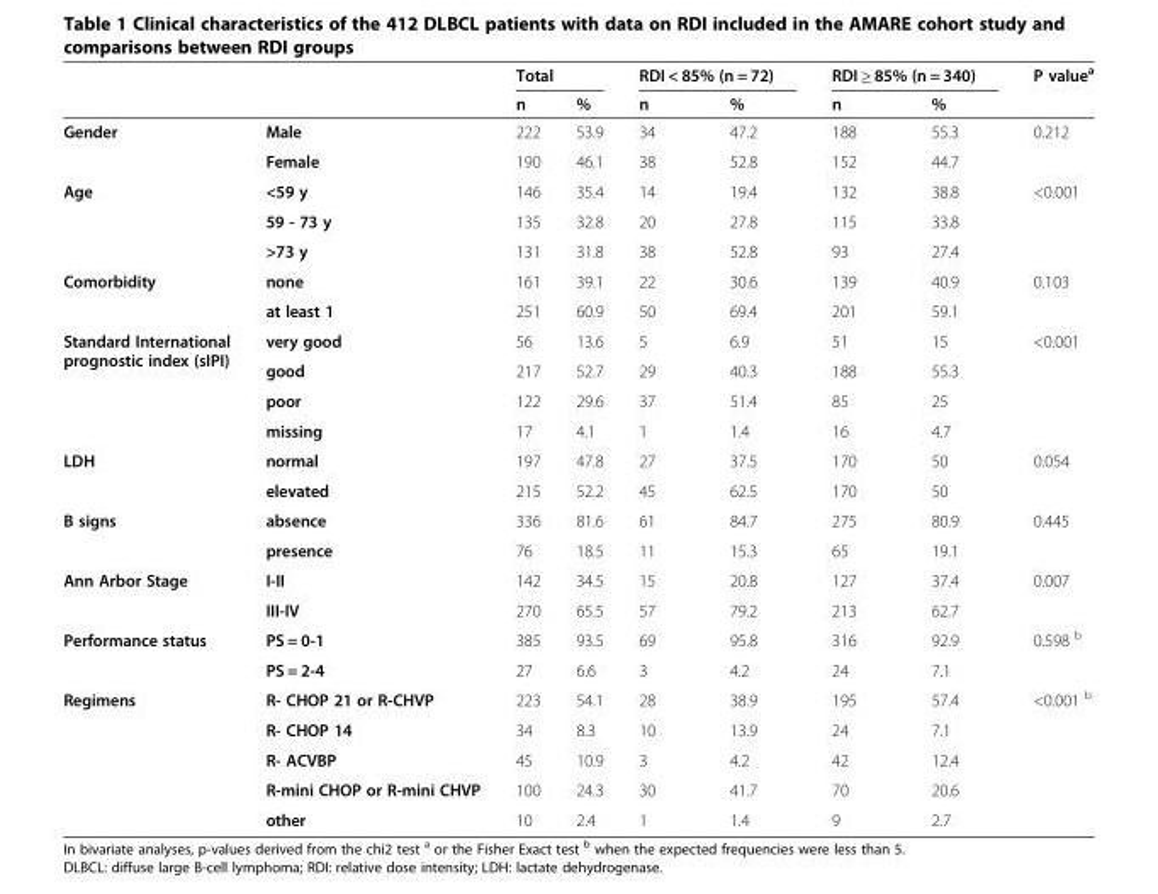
<table><thead><tr><td rowspan="2"></td><td rowspan="2"></td><td colspan="2">Total</td><td colspan="2">RDI &lt; 85% (n = 72)</td><td colspan="2">RDI ≥ 85% (n = 340)</td><td rowspan="2">P value<sup>a</sup></td></tr><tr><td>n</td><td>%</td><td>n</td><td>%</td><td>n</td><td>%</td></tr></thead><tbody><tr><td rowspan="2">Gender</td><td>Male</td><td>222</td><td>53.9</td><td>34</td><td>47.2</td><td>188</td><td>55.3</td><td>0.212</td></tr><tr><td>Female</td><td>190</td><td>46.1</td><td>38</td><td>52.8</td><td>152</td><td>44.7</td><td></td></tr><tr><td rowspan="3">Age</td><td>&lt;59 y</td><td>146</td><td>35.4</td><td>14</td><td>19.4</td><td>132</td><td>38.8</td><td>&lt;0.001</td></tr><tr><td>59 - 73 y</td><td>135</td><td>32.8</td><td>20</td><td>27.8</td><td>115</td><td>33.8</td><td></td></tr><tr><td>&gt;73 y</td><td>131</td><td>31.8</td><td>38</td><td>52.8</td><td>93</td><td>27.4</td><td></td></tr><tr><td rowspan="2">Comorbidity</td><td>none</td><td>161</td><td>39.1</td><td>22</td><td>30.6</td><td>139</td><td>40.9</td><td>0.103</td></tr><tr><td>at least 1</td><td>251</td><td>60.9</td><td>50</td><td>69.4</td><td>201</td><td>59.1</td><td></td></tr><tr><td rowspan="4">Standard International prognostic index (sIPI)</td><td>very good</td><td>56</td><td>13.6</td><td>5</td><td>6.9</td><td>51</td><td>15</td><td>&lt;0.001</td></tr><tr><td>good</td><td>217</td><td>52.7</td><td>29</td><td>40.3</td><td>188</td><td>55.3</td><td></td></tr><tr><td>poor</td><td>122</td><td>29.6</td><td>37</td><td>51.4</td><td>85</td><td>25</td><td></td></tr><tr><td>missing</td><td>17</td><td>4.1</td><td>1</td><td>1.4</td><td>16</td><td>4.7</td><td></td></tr><tr><td rowspan="2">LDH</td><td>normal</td><td>197</td><td>47.8</td><td>27</td><td>37.5</td><td>170</td><td>50</td><td>0.054</td></tr><tr><td>elevated</td><td>215</td><td>52.2</td><td>45</td><td>62.5</td><td>170</td><td>50</td><td></td></tr><tr><td rowspan="2">B signs</td><td>absence</td><td>336</td><td>81.6</td><td>61</td><td>84.7</td><td>275</td><td>80.9</td><td>0.445</td></tr><tr><td>presence</td><td>76</td><td>18.5</td><td>11</td><td>15.3</td><td>65</td><td>19.1</td><td></td></tr><tr><td rowspan="2">Ann Arbor Stage</td><td>I-II</td><td>142</td><td>34.5</td><td>15</td><td>20.8</td><td>127</td><td>37.4</td><td>0.007</td></tr><tr><td>III-IV</td><td>270</td><td>65.5</td><td>57</td><td>79.2</td><td>213</td><td>62.7</td><td></td></tr><tr><td rowspan="2">Performance status</td><td>PS = 0-1</td><td>385</td><td>93.5</td><td>69</td><td>95.8</td><td>316</td><td>92.9</td><td>0.598 <sup>b</sup></td></tr><tr><td>PS = 2-4</td><td>27</td><td>6.6</td><td>3</td><td>4.2</td><td>24</td><td>7.1</td><td></td></tr><tr><td rowspan="5">Regimens</td><td>R- CHOP 21 or R-CHVP</td><td>223</td><td>54.1</td><td>28</td><td>38.9</td><td>195</td><td>57.4</td><td>&lt;0.001 <sup>b</sup></td></tr><tr><td>R- CHOP 14</td><td>34</td><td>8.3</td><td>10</td><td>13.9</td><td>24</td><td>7.1</td><td></td></tr><tr><td>R- ACVBP</td><td>45</td><td>10.9</td><td>3</td><td>4.2</td><td>42</td><td>12.4</td><td></td></tr><tr><td>R-mini CHOP or R-mini CHVP</td><td>100</td><td>24.3</td><td>30</td><td>41.7</td><td>70</td><td>20.6</td><td></td></tr><tr><td>other</td><td>10</td><td>2.4</td><td>1</td><td>1.4</td><td>9</td><td>2.7</td><td></td></tr></tbody></table>